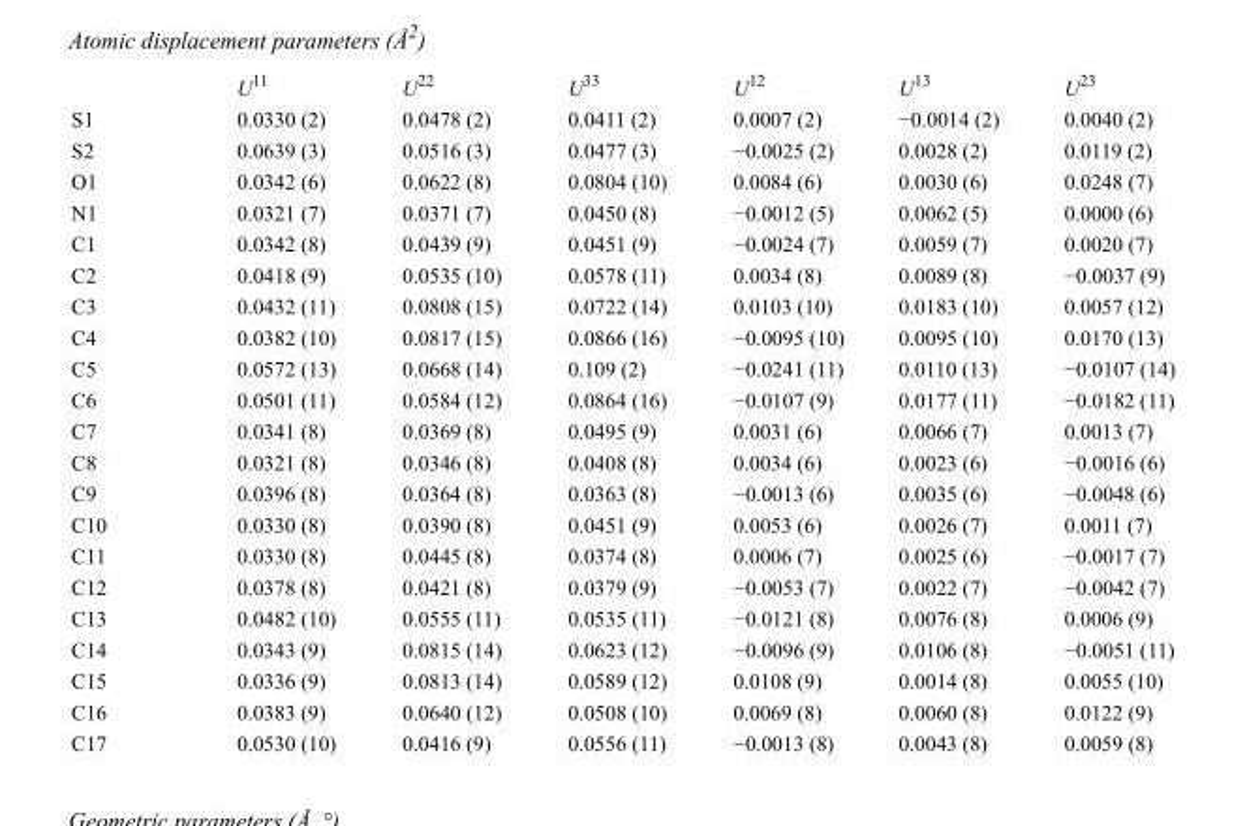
<table><thead><tr><td></td><td>U<sup>11</sup></td><td>U<sup>22</sup></td><td>U<sup>33</sup></td><td>U<sup>12</sup></td><td>U<sup>13</sup></td><td>U<sup>23</sup></td></tr></thead><tbody><tr><td>S1</td><td>0.0330 (2)</td><td>0.0478 (2)</td><td>0.0411 (2)</td><td>0.0007 (2)</td><td>−0.0014 (2)</td><td>0.0040 (2)</td></tr><tr><td>S2</td><td>0.0639 (3)</td><td>0.0516 (3)</td><td>0.0477 (3)</td><td>−0.0025 (2)</td><td>0.0028 (2)</td><td>0.0119 (2)</td></tr><tr><td>O1</td><td>0.0342 (6)</td><td>0.0622 (8)</td><td>0.0804 (10)</td><td>0.0084 (6)</td><td>0.0030 (6)</td><td>0.0248 (7)</td></tr><tr><td>N1</td><td>0.0321 (7)</td><td>0.0371 (7)</td><td>0.0450 (8)</td><td>−0.0012 (5)</td><td>0.0062 (5)</td><td>0.0000 (6)</td></tr><tr><td>C1</td><td>0.0342 (8)</td><td>0.0439 (9)</td><td>0.0451 (9)</td><td>−0.0024 (7)</td><td>0.0059 (7)</td><td>0.0020 (7)</td></tr><tr><td>C2</td><td>0.0418 (9)</td><td>0.0535 (10)</td><td>0.0578 (11)</td><td>0.0034 (8)</td><td>0.0089 (8)</td><td>−0.0037 (9)</td></tr><tr><td>C3</td><td>0.0432 (11)</td><td>0.0808 (15)</td><td>0.0722 (14)</td><td>0.0103 (10)</td><td>0.0183 (10)</td><td>0.0057 (12)</td></tr><tr><td>C4</td><td>0.0382 (10)</td><td>0.0817 (15)</td><td>0.0866 (16)</td><td>−0.0095 (10)</td><td>0.0095 (10)</td><td>0.0170 (13)</td></tr><tr><td>C5</td><td>0.0572 (13)</td><td>0.0668 (14)</td><td>0.109 (2)</td><td>−0.0241 (11)</td><td>0.0110 (13)</td><td>−0.0107 (14)</td></tr><tr><td>C6</td><td>0.0501 (11)</td><td>0.0584 (12)</td><td>0.0864 (16)</td><td>−0.0107 (9)</td><td>0.0177 (11)</td><td>−0.0182 (11)</td></tr><tr><td>C7</td><td>0.0341 (8)</td><td>0.0369 (8)</td><td>0.0495 (9)</td><td>0.0031 (6)</td><td>0.0066 (7)</td><td>0.0013 (7)</td></tr><tr><td>C8</td><td>0.0321 (8)</td><td>0.0346 (8)</td><td>0.0408 (8)</td><td>0.0034 (6)</td><td>0.0023 (6)</td><td>−0.0016 (6)</td></tr><tr><td>C9</td><td>0.0396 (8)</td><td>0.0364 (8)</td><td>0.0363 (8)</td><td>−0.0013 (6)</td><td>0.0035 (6)</td><td>−0.0048 (6)</td></tr><tr><td>C10</td><td>0.0330 (8)</td><td>0.0390 (8)</td><td>0.0451 (9)</td><td>0.0053 (6)</td><td>0.0026 (7)</td><td>0.0011 (7)</td></tr><tr><td>C11</td><td>0.0330 (8)</td><td>0.0445 (8)</td><td>0.0374 (8)</td><td>0.0006 (7)</td><td>0.0025 (6)</td><td>−0.0017 (7)</td></tr><tr><td>C12</td><td>0.0378 (8)</td><td>0.0421 (8)</td><td>0.0379 (9)</td><td>−0.0053 (7)</td><td>0.0022 (7)</td><td>−0.0042 (7)</td></tr><tr><td>C13</td><td>0.0482 (10)</td><td>0.0555 (11)</td><td>0.0535 (11)</td><td>−0.0121 (8)</td><td>0.0076 (8)</td><td>0.0006 (9)</td></tr><tr><td>C14</td><td>0.0343 (9)</td><td>0.0815 (14)</td><td>0.0623 (12)</td><td>−0.0096 (9)</td><td>0.0106 (8)</td><td>−0.0051 (11)</td></tr><tr><td>C15</td><td>0.0336 (9)</td><td>0.0813 (14)</td><td>0.0589 (12)</td><td>0.0108 (9)</td><td>0.0014 (8)</td><td>0.0055 (10)</td></tr><tr><td>C16</td><td>0.0383 (9)</td><td>0.0640 (12)</td><td>0.0508 (10)</td><td>0.0069 (8)</td><td>0.0060 (8)</td><td>0.0122 (9)</td></tr><tr><td>C17</td><td>0.0530 (10)</td><td>0.0416 (9)</td><td>0.0556 (11)</td><td>−0.0013 (8)</td><td>0.0043 (8)</td><td>0.0059 (8)</td></tr></tbody></table>